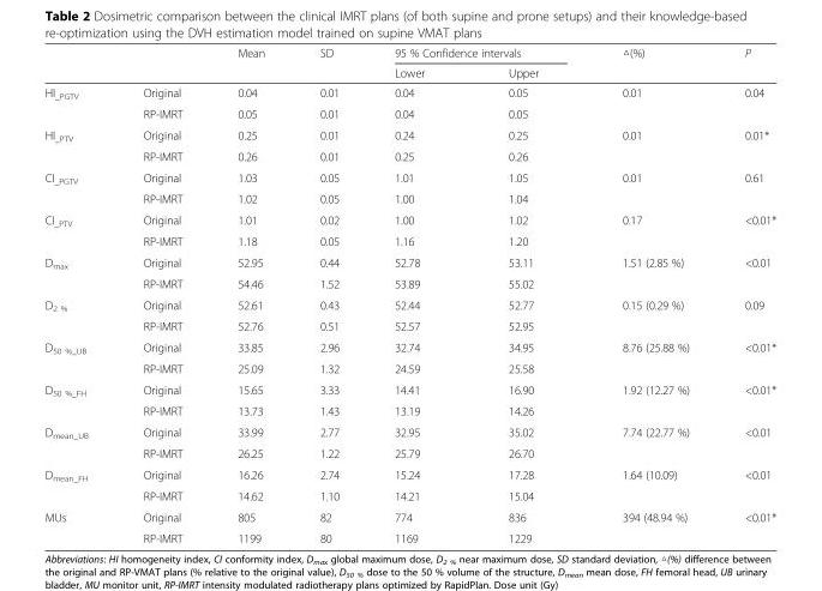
<table><thead><tr><td rowspan="2"></td><td rowspan="2"></td><td rowspan="2">Mean</td><td rowspan="2">SD</td><td colspan="2">95 % Confidence intervals</td><td rowspan="2">△(%)</td><td rowspan="2">P</td></tr><tr><td>Lower</td><td>Upper</td></tr></thead><tbody><tr><td rowspan="2">HI_PGTV</td><td>Original</td><td>0.04</td><td>0.01</td><td>0.04</td><td>0.05</td><td rowspan="2">0.01</td><td rowspan="2">0.04</td></tr><tr><td>RP-IMRT</td><td>0.05</td><td>0.01</td><td>0.04</td><td>0.05</td></tr><tr><td rowspan="2">HI_PTV</td><td>Original</td><td>0.25</td><td>0.01</td><td>0.24</td><td>0.25</td><td rowspan="2">0.01</td><td rowspan="2">0.01*</td></tr><tr><td>RP-IMRT</td><td>0.26</td><td>0.01</td><td>0.25</td><td>0.26</td></tr><tr><td rowspan="2">CI_PGTV</td><td>Original</td><td>1.03</td><td>0.05</td><td>1.01</td><td>1.05</td><td rowspan="2">0.01</td><td rowspan="2">0.61</td></tr><tr><td>RP-IMRT</td><td>1.02</td><td>0.05</td><td>1.00</td><td>1.04</td></tr><tr><td rowspan="2">CI_PTV</td><td>Original</td><td>1.01</td><td>0.02</td><td>1.00</td><td>1.02</td><td rowspan="2">0.17</td><td rowspan="2">&lt;0.01*</td></tr><tr><td>RP-IMRT</td><td>1.18</td><td>0.05</td><td>1.16</td><td>1.20</td></tr><tr><td rowspan="2">D<sub>max</sub></td><td>Original</td><td>52.95</td><td>0.44</td><td>52.78</td><td>53.11</td><td rowspan="2">1.51 (2.85 %)</td><td rowspan="2">&lt;0.01</td></tr><tr><td>RP-IMRT</td><td>54.46</td><td>1.52</td><td>53.89</td><td>55.02</td></tr><tr><td rowspan="2">D<sub>2 %</sub></td><td>Original</td><td>52.61</td><td>0.43</td><td>52.44</td><td>52.77</td><td rowspan="2">0.15 (0.29 %)</td><td rowspan="2">0.09</td></tr><tr><td>RP-IMRT</td><td>52.76</td><td>0.51</td><td>52.57</td><td>52.95</td></tr><tr><td rowspan="2">D<sub>50 %_UB</sub></td><td>Original</td><td>33.85</td><td>2.96</td><td>32.74</td><td>34.95</td><td rowspan="2">8.76 (25.88 %)</td><td rowspan="2">&lt;0.01*</td></tr><tr><td>RP-IMRT</td><td>25.09</td><td>1.32</td><td>24.59</td><td>25.58</td></tr><tr><td rowspan="2">D<sub>50 %_FH</sub></td><td>Original</td><td>15.65</td><td>3.33</td><td>14.41</td><td>16.90</td><td rowspan="2">1.92 (12.27 %)</td><td rowspan="2">&lt;0.01*</td></tr><tr><td>RP-IMRT</td><td>13.73</td><td>1.43</td><td>13.19</td><td>14.26</td></tr><tr><td rowspan="2">D<sub>mean_UB</sub></td><td>Original</td><td>33.99</td><td>2.77</td><td>32.95</td><td>35.02</td><td rowspan="2">7.74 (22.77 %)</td><td rowspan="2">&lt;0.01</td></tr><tr><td>RP-IMRT</td><td>26.25</td><td>1.22</td><td>25.79</td><td>26.70</td></tr><tr><td rowspan="2">D<sub>mean_FH</sub></td><td>Original</td><td>16.26</td><td>2.74</td><td>15.24</td><td>17.28</td><td rowspan="2">1.64 (10.09)</td><td rowspan="2">&lt;0.01</td></tr><tr><td>RP-IMRT</td><td>14.62</td><td>1.10</td><td>14.21</td><td>15.04</td></tr><tr><td rowspan="2">MUs</td><td>Original</td><td>805</td><td>82</td><td>774</td><td>836</td><td rowspan="2">394 (48.94 %)</td><td rowspan="2">&lt;0.01*</td></tr><tr><td>RP-IMRT</td><td>1199</td><td>80</td><td>1169</td><td>1229</td></tr></tbody></table>